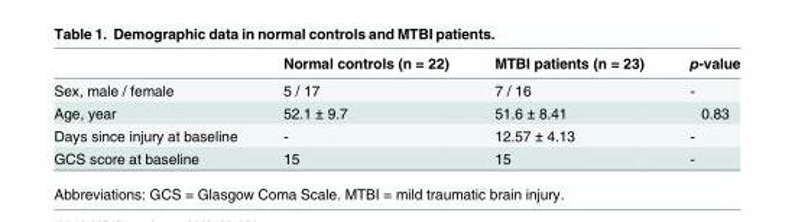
<table><thead><tr><td></td><td>Normal controls (n = 22)</td><td>MTBI patients (n = 23)</td><td>p-value</td></tr></thead><tbody><tr><td>Sex, male / female</td><td>5 / 17</td><td>7 / 16</td><td>-</td></tr><tr><td>Age, year</td><td>52.1 ± 9.7</td><td>51.6 ± 8.41</td><td>0.83</td></tr><tr><td>Days since injury at baseline</td><td>-</td><td>12.57 ± 4.13</td><td>-</td></tr><tr><td>GCS score at baseline</td><td>15</td><td>15</td><td>-</td></tr></tbody></table>